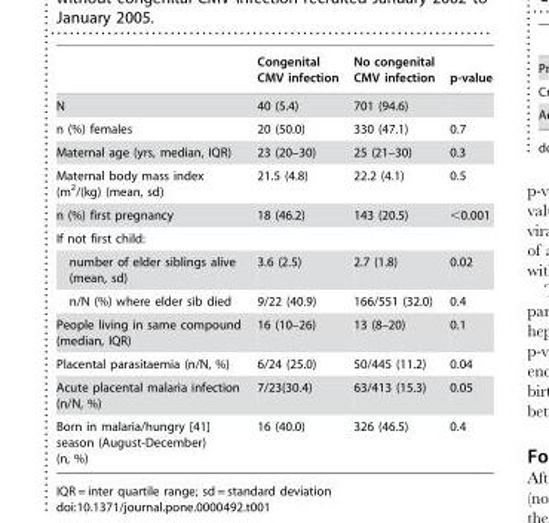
<table><thead><tr><td></td><td>Congenital CMV infection</td><td>No congenital CMV infection</td><td>p-value</td></tr></thead><tbody><tr><td>N</td><td>40 (5.4)</td><td>701 (94.6)</td><td></td></tr><tr><td>n (%) females</td><td>20 (50.0)</td><td>330 (47.1)</td><td>0.7</td></tr><tr><td>Maternal age (yrs, median, IQR)</td><td>23 (20–30)</td><td>25 (21–30)</td><td>0.3</td></tr><tr><td>Maternal body mass index (m<sup>2</sup>/(kg) (mean, sd)</td><td>21.5 (4.8)</td><td>22.2 (4.1)</td><td>0.5</td></tr><tr><td>n (%) first pregnancy</td><td>18 (46.2)</td><td>143 (20.5)</td><td>&lt;0.001</td></tr><tr><td colspan="4">If not first child:</td></tr><tr><td>number of elder siblings alive (mean, sd)</td><td>3.6 (2.5)</td><td>2.7 (1.8)</td><td>0.02</td></tr><tr><td>n/N (%) where elder sib died</td><td>9/22 (40.9)</td><td>166/551 (32.0)</td><td>0.4</td></tr><tr><td>People living in same compound (median, IQR)</td><td>16 (10–26)</td><td>13 (8–20)</td><td>0.1</td></tr><tr><td>Placental parasitaemia (n/N, %)</td><td>6/24 (25.0)</td><td>50/445 (11.2)</td><td>0.04</td></tr><tr><td>Acute placental malaria infection (n/N, %)</td><td>7/23(30.4)</td><td>63/413 (15.3)</td><td>0.05</td></tr><tr><td>Born in malaria/hungry [41] season (August-December) (n, %)</td><td>16 (40.0)</td><td>326 (46.5)</td><td>0.4</td></tr></tbody></table>